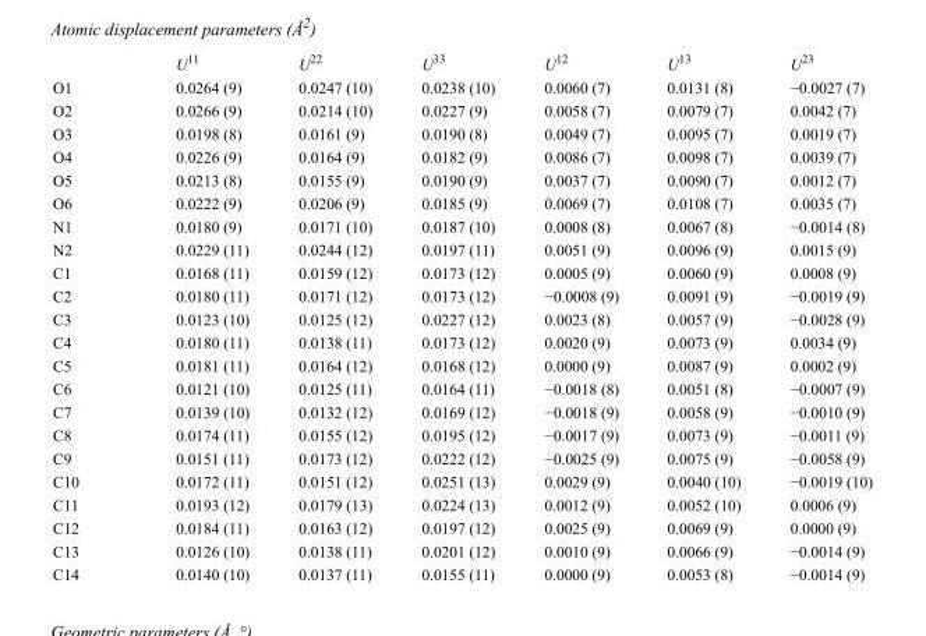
<table><thead><tr><td></td><td>U<sup>11</sup></td><td>U<sup>22</sup></td><td>U<sup>33</sup></td><td>U<sup>12</sup></td><td>U<sup>13</sup></td><td>U<sup>23</sup></td></tr></thead><tbody><tr><td>O1</td><td>0.0264 (9)</td><td>0.0247 (10)</td><td>0.0238 (10)</td><td>0.0060 (7)</td><td>0.0131 (8)</td><td>−0.0027 (7)</td></tr><tr><td>O2</td><td>0.0266 (9)</td><td>0.0214 (10)</td><td>0.0227 (9)</td><td>0.0058 (7)</td><td>0.0079 (7)</td><td>0.0042 (7)</td></tr><tr><td>O3</td><td>0.0198 (8)</td><td>0.0161 (9)</td><td>0.0190 (8)</td><td>0.0049 (7)</td><td>0.0095 (7)</td><td>0.0019 (7)</td></tr><tr><td>O4</td><td>0.0226 (9)</td><td>0.0164 (9)</td><td>0.0182 (9)</td><td>0.0086 (7)</td><td>0.0098 (7)</td><td>0.0039 (7)</td></tr><tr><td>O5</td><td>0.0213 (8)</td><td>0.0155 (9)</td><td>0.0190 (9)</td><td>0.0037 (7)</td><td>0.0090 (7)</td><td>0.0012 (7)</td></tr><tr><td>O6</td><td>0.0222 (9)</td><td>0.0206 (9)</td><td>0.0185 (9)</td><td>0.0069 (7)</td><td>0.0108 (7)</td><td>0.0035 (7)</td></tr><tr><td>N1</td><td>0.0180 (9)</td><td>0.0171 (10)</td><td>0.0187 (10)</td><td>0.0008 (8)</td><td>0.0067 (8)</td><td>−0.0014 (8)</td></tr><tr><td>N2</td><td>0.0229 (11)</td><td>0.0244 (12)</td><td>0.0197 (11)</td><td>0.0051 (9)</td><td>0.0096 (9)</td><td>0.0015 (9)</td></tr><tr><td>C1</td><td>0.0168 (11)</td><td>0.0159 (12)</td><td>0.0173 (12)</td><td>0.0005 (9)</td><td>0.0060 (9)</td><td>0.0008 (9)</td></tr><tr><td>C2</td><td>0.0180 (11)</td><td>0.0171 (12)</td><td>0.0173 (12)</td><td>−0.0008 (9)</td><td>0.0091 (9)</td><td>−0.0019 (9)</td></tr><tr><td>C3</td><td>0.0123 (10)</td><td>0.0125 (12)</td><td>0.0227 (12)</td><td>0.0023 (8)</td><td>0.0057 (9)</td><td>−0.0028 (9)</td></tr><tr><td>C4</td><td>0.0180 (11)</td><td>0.0138 (11)</td><td>0.0173 (12)</td><td>0.0020 (9)</td><td>0.0073 (9)</td><td>0.0034 (9)</td></tr><tr><td>C5</td><td>0.0181 (11)</td><td>0.0164 (12)</td><td>0.0168 (12)</td><td>0.0000 (9)</td><td>0.0087 (9)</td><td>0.0002 (9)</td></tr><tr><td>C6</td><td>0.0121 (10)</td><td>0.0125 (11)</td><td>0.0164 (11)</td><td>−0.0018 (8)</td><td>0.0051 (8)</td><td>−0.0007 (9)</td></tr><tr><td>C7</td><td>0.0139 (10)</td><td>0.0132 (12)</td><td>0.0169 (12)</td><td>−0.0018 (9)</td><td>0.0058 (9)</td><td>−0.0010 (9)</td></tr><tr><td>C8</td><td>0.0174 (11)</td><td>0.0155 (12)</td><td>0.0195 (12)</td><td>−0.0017 (9)</td><td>0.0073 (9)</td><td>−0.0011 (9)</td></tr><tr><td>C9</td><td>0.0151 (11)</td><td>0.0173 (12)</td><td>0.0222 (12)</td><td>−0.0025 (9)</td><td>0.0075 (9)</td><td>−0.0058 (9)</td></tr><tr><td>C10</td><td>0.0172 (11)</td><td>0.0151 (12)</td><td>0.0251 (13)</td><td>0.0029 (9)</td><td>0.0040 (10)</td><td>−0.0019 (10)</td></tr><tr><td>C11</td><td>0.0193 (12)</td><td>0.0179 (13)</td><td>0.0224 (13)</td><td>0.0012 (9)</td><td>0.0052 (10)</td><td>0.0006 (9)</td></tr><tr><td>C12</td><td>0.0184 (11)</td><td>0.0163 (12)</td><td>0.0197 (12)</td><td>0.0025 (9)</td><td>0.0069 (9)</td><td>0.0000 (9)</td></tr><tr><td>C13</td><td>0.0126 (10)</td><td>0.0138 (11)</td><td>0.0201 (12)</td><td>0.0010 (9)</td><td>0.0066 (9)</td><td>−0.0014 (9)</td></tr><tr><td>C14</td><td>0.0140 (10)</td><td>0.0137 (11)</td><td>0.0155 (11)</td><td>0.0000 (9)</td><td>0.0053 (8)</td><td>−0.0014 (9)</td></tr></tbody></table>